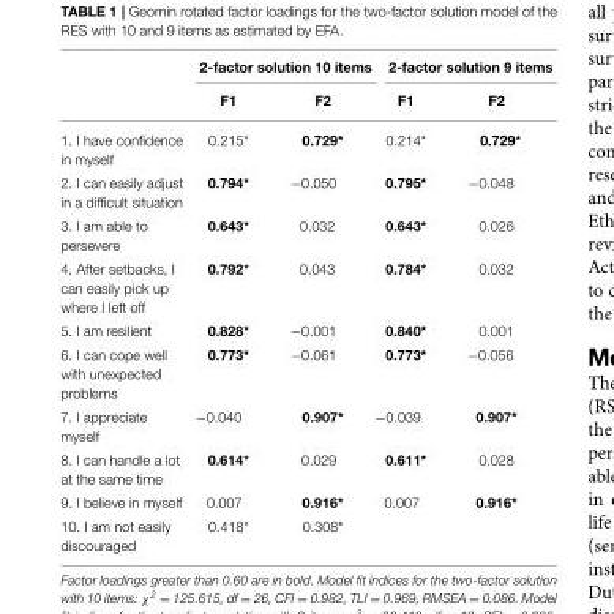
<table><thead><tr><td rowspan="2"></td><td colspan="2">2-factor solution 10 items</td><td colspan="2">2-factor solution 9 items</td></tr><tr><td>F1</td><td>F2</td><td>F1</td><td>F2</td></tr></thead><tbody><tr><td>1. I have confidence in myself</td><td>0.215*</td><td>0.729*</td><td>0.214*</td><td>0.729*</td></tr><tr><td>2. I can easily adjust in a difficult situation</td><td>0.794*</td><td>−0.050</td><td>0.795*</td><td>−0.048</td></tr><tr><td>3. I am able to persevere</td><td>0.643*</td><td>0.032</td><td>0.643*</td><td>0.026</td></tr><tr><td>4. After setbacks, I can easily pick up where I left off</td><td>0.792*</td><td>0.043</td><td>0.784*</td><td>0.032</td></tr><tr><td>5. I am resilient</td><td>0.828*</td><td>−0.001</td><td>0.840*</td><td>0.001</td></tr><tr><td>6. I can cope well with unexpected problems</td><td>0.773*</td><td>−0.061</td><td>0.773*</td><td>−0.056</td></tr><tr><td>7. I appreciate myself</td><td>−0.040</td><td>0.907*</td><td>−0.039</td><td>0.907*</td></tr><tr><td>8. I can handle a lot at the same time</td><td>0.614*</td><td>0.029</td><td>0.611*</td><td>0.028</td></tr><tr><td>9. I believe in myself</td><td>0.007</td><td>0.916*</td><td>0.007</td><td>0.916*</td></tr><tr><td>10. I am not easily discouraged</td><td>0.418*</td><td>0.308*</td><td></td><td></td></tr></tbody></table>